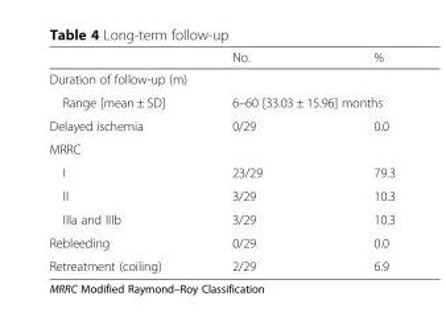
<table><thead><tr><td></td><td>No.</td><td>%</td></tr></thead><tbody><tr><td colspan="3">Duration of follow-up (m)</td></tr><tr><td>Range [mean ± SD]</td><td colspan="2">6–60 [33.03 ± 15.96] months</td></tr><tr><td>Delayed ischemia</td><td>0/29</td><td>0.0</td></tr><tr><td colspan="3">MRRC</td></tr><tr><td>I</td><td>23/29</td><td>79.3</td></tr><tr><td>II</td><td>3/29</td><td>10.3</td></tr><tr><td>IIIa and IIIb</td><td>3/29</td><td>10.3</td></tr><tr><td>Rebleeding</td><td>0/29</td><td>0.0</td></tr><tr><td>Retreatment (coiling)</td><td>2/29</td><td>6.9</td></tr></tbody></table>